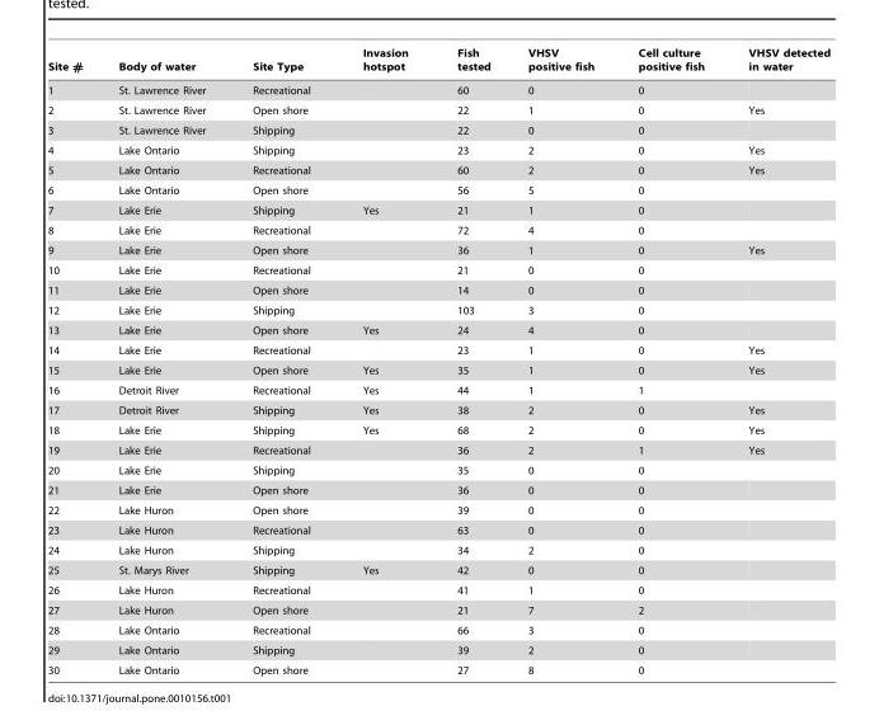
<table><thead><tr><td>Site #</td><td>Body of water</td><td>Site Type</td><td>Invasion hotspot</td><td>Fish tested</td><td>VHSV positive fish</td><td>Cell culture positive fish</td><td>VHSV detected in water</td></tr></thead><tbody><tr><td>1</td><td>St. Lawrence River</td><td>Recreational</td><td></td><td>60</td><td>0</td><td>0</td><td></td></tr><tr><td>2</td><td>St. Lawrence River</td><td>Open shore</td><td></td><td>22</td><td>1</td><td>0</td><td>Yes</td></tr><tr><td>3</td><td>St. Lawrence River</td><td>Shipping</td><td></td><td>22</td><td>0</td><td>0</td><td></td></tr><tr><td>4</td><td>Lake Ontario</td><td>Shipping</td><td></td><td>23</td><td>2</td><td>0</td><td>Yes</td></tr><tr><td>5</td><td>Lake Ontario</td><td>Recreational</td><td></td><td>60</td><td>2</td><td>0</td><td>Yes</td></tr><tr><td>6</td><td>Lake Ontario</td><td>Open shore</td><td></td><td>56</td><td>5</td><td>0</td><td></td></tr><tr><td>7</td><td>Lake Erie</td><td>Shipping</td><td>Yes</td><td>21</td><td>1</td><td>0</td><td></td></tr><tr><td>8</td><td>Lake Erie</td><td>Recreational</td><td></td><td>72</td><td>4</td><td>0</td><td></td></tr><tr><td>9</td><td>Lake Erie</td><td>Open shore</td><td></td><td>36</td><td>1</td><td>0</td><td>Yes</td></tr><tr><td>10</td><td>Lake Erie</td><td>Recreational</td><td></td><td>21</td><td>0</td><td>0</td><td></td></tr><tr><td>11</td><td>Lake Erie</td><td>Open shore</td><td></td><td>14</td><td>0</td><td>0</td><td></td></tr><tr><td>12</td><td>Lake Erie</td><td>Shipping</td><td></td><td>103</td><td>3</td><td>0</td><td></td></tr><tr><td>13</td><td>Lake Erie</td><td>Open shore</td><td>Yes</td><td>24</td><td>4</td><td>0</td><td></td></tr><tr><td>14</td><td>Lake Erie</td><td>Recreational</td><td></td><td>23</td><td>1</td><td>0</td><td>Yes</td></tr><tr><td>15</td><td>Lake Erie</td><td>Open shore</td><td>Yes</td><td>35</td><td>1</td><td>0</td><td>Yes</td></tr><tr><td>16</td><td>Detroit River</td><td>Recreational</td><td>Yes</td><td>44</td><td>1</td><td>1</td><td></td></tr><tr><td>17</td><td>Detroit River</td><td>Shipping</td><td>Yes</td><td>38</td><td>2</td><td>0</td><td>Yes</td></tr><tr><td>18</td><td>Lake Erie</td><td>Shipping</td><td>Yes</td><td>68</td><td>2</td><td>0</td><td>Yes</td></tr><tr><td>19</td><td>Lake Erie</td><td>Recreational</td><td></td><td>36</td><td>2</td><td>1</td><td>Yes</td></tr><tr><td>20</td><td>Lake Erie</td><td>Shipping</td><td></td><td>35</td><td>0</td><td>0</td><td></td></tr><tr><td>21</td><td>Lake Erie</td><td>Open shore</td><td></td><td>36</td><td>0</td><td>0</td><td></td></tr><tr><td>22</td><td>Lake Huron</td><td>Open shore</td><td></td><td>39</td><td>0</td><td>0</td><td></td></tr><tr><td>23</td><td>Lake Huron</td><td>Recreational</td><td></td><td>63</td><td>0</td><td>0</td><td></td></tr><tr><td>24</td><td>Lake Huron</td><td>Shipping</td><td></td><td>34</td><td>2</td><td>0</td><td></td></tr><tr><td>25</td><td>St. Marys River</td><td>Shipping</td><td>Yes</td><td>42</td><td>0</td><td>0</td><td></td></tr><tr><td>26</td><td>Lake Huron</td><td>Recreational</td><td></td><td>41</td><td>1</td><td>0</td><td></td></tr><tr><td>27</td><td>Lake Huron</td><td>Open shore</td><td></td><td>21</td><td>7</td><td>2</td><td></td></tr><tr><td>28</td><td>Lake Ontario</td><td>Recreational</td><td></td><td>66</td><td>3</td><td>0</td><td></td></tr><tr><td>29</td><td>Lake Ontario</td><td>Shipping</td><td></td><td>39</td><td>2</td><td>0</td><td></td></tr><tr><td>30</td><td>Lake Ontario</td><td>Open shore</td><td></td><td>27</td><td>8</td><td>0</td><td></td></tr></tbody></table>